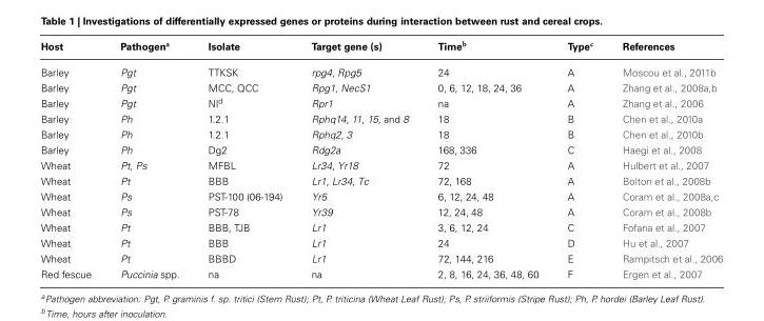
<table><thead><tr><td>Host</td><td>Pathogen<sup>a</sup></td><td>Isolate</td><td>Target gene (s)</td><td>Time<sup>b</sup></td><td>Type<sup>c</sup></td><td>References</td></tr></thead><tbody><tr><td>Barley</td><td>Pgt</td><td>TTKSK</td><td>rpg4, Rpg5</td><td>24</td><td>A</td><td>Moscou et al., 2011b</td></tr><tr><td>Barley</td><td>Pgt</td><td>MCC, QCC</td><td>Rpg1, NecS1</td><td>0, 6, 12, 18, 24, 36</td><td>A</td><td>Zhang et al., 2008a,b</td></tr><tr><td>Barley</td><td>Pgt</td><td>NI<sup>d</sup></td><td>Rpr1</td><td>na</td><td>A</td><td>Zhang et al., 2006</td></tr><tr><td>Barley</td><td>Ph</td><td>1.2.1</td><td>Rphq14, 11, 15, and 8</td><td>18</td><td>B</td><td>Chen et al., 2010a</td></tr><tr><td>Barley</td><td>Ph</td><td>1.2.1</td><td>Rphq2, 3</td><td>18</td><td>B</td><td>Chen et al., 2010b</td></tr><tr><td>Barley</td><td>Ph</td><td>Dg2</td><td>Rdg2a</td><td>168, 336</td><td>C</td><td>Haegi et al., 2008</td></tr><tr><td>Wheat</td><td>Pt, Ps</td><td>MFBL</td><td>Lr34, Yr18</td><td>72</td><td>A</td><td>Hulbert et al., 2007</td></tr><tr><td>Wheat</td><td>Pt</td><td>BBB</td><td>Lr1, Lr34, Tc</td><td>72, 168</td><td>A</td><td>Bolton et al., 2008b</td></tr><tr><td>Wheat</td><td>Ps</td><td>PST-100 (06-194)</td><td>Yr5</td><td>6, 12, 24, 48</td><td>A</td><td>Coram et al., 2008a,c</td></tr><tr><td>Wheat</td><td>Ps</td><td>PST-78</td><td>Yr39</td><td>12, 24, 48</td><td>A</td><td>Coram et al., 2008b</td></tr><tr><td>Wheat</td><td>Pt</td><td>BBB, TJB</td><td>Lr1</td><td>3, 6, 12, 24</td><td>C</td><td>Fofana et al., 2007</td></tr><tr><td>Wheat</td><td>Pt</td><td>BBB</td><td>Lr1</td><td>24</td><td>D</td><td>Hu et al., 2007</td></tr><tr><td>Wheat</td><td>Pt</td><td>BBBD</td><td>Lr1</td><td>72, 144, 216</td><td>E</td><td>Rampitsch et al., 2006</td></tr><tr><td>Red fescue</td><td>Puccinia spp.</td><td>na</td><td>na</td><td>2, 8, 16, 24, 36, 48, 60</td><td>F</td><td>Ergen et al., 2007</td></tr></tbody></table>